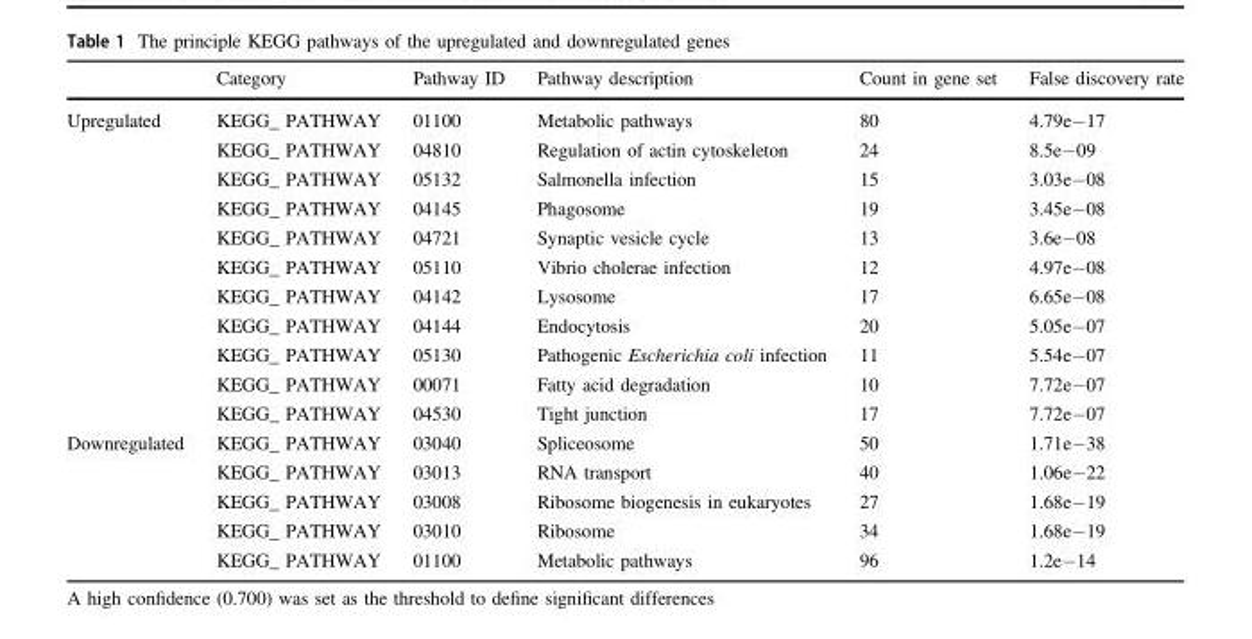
<table><thead><tr><td></td><td>Category</td><td>Pathway ID</td><td>Pathway description</td><td>Count in gene set</td><td>False discovery rate</td></tr></thead><tbody><tr><td rowspan="11">Upregulated</td><td>KEGG_ PATHWAY</td><td>01100</td><td>Metabolic pathways</td><td>80</td><td>4.79e−17</td></tr><tr><td>KEGG_ PATHWAY</td><td>04810</td><td>Regulation of actin cytoskeleton</td><td>24</td><td>8.5e−09</td></tr><tr><td>KEGG_ PATHWAY</td><td>05132</td><td>Salmonella infection</td><td>15</td><td>3.03e−08</td></tr><tr><td>KEGG_ PATHWAY</td><td>04145</td><td>Phagosome</td><td>19</td><td>3.45e−08</td></tr><tr><td>KEGG_ PATHWAY</td><td>04721</td><td>Synaptic vesicle cycle</td><td>13</td><td>3.6e−08</td></tr><tr><td>KEGG_ PATHWAY</td><td>05110</td><td>Vibrio cholerae infection</td><td>12</td><td>4.97e−08</td></tr><tr><td>KEGG_ PATHWAY</td><td>04142</td><td>Lysosome</td><td>17</td><td>6.65e−08</td></tr><tr><td>KEGG_ PATHWAY</td><td>04144</td><td>Endocytosis</td><td>20</td><td>5.05e−07</td></tr><tr><td>KEGG_ PATHWAY</td><td>05130</td><td>Pathogenic Escherichia coli infection</td><td>11</td><td>5.54e−07</td></tr><tr><td>KEGG_ PATHWAY</td><td>00071</td><td>Fatty acid degradation</td><td>10</td><td>7.72e−07</td></tr><tr><td>KEGG_ PATHWAY</td><td>04530</td><td>Tight junction</td><td>17</td><td>7.72e−07</td></tr><tr><td rowspan="5">Downregulated</td><td>KEGG_ PATHWAY</td><td>03040</td><td>Spliceosome</td><td>50</td><td>1.71e−38</td></tr><tr><td>KEGG_ PATHWAY</td><td>03013</td><td>RNA transport</td><td>40</td><td>1.06e−22</td></tr><tr><td>KEGG_ PATHWAY</td><td>03008</td><td>Ribosome biogenesis in eukaryotes</td><td>27</td><td>1.68e−19</td></tr><tr><td>KEGG_ PATHWAY</td><td>03010</td><td>Ribosome</td><td>34</td><td>1.68e−19</td></tr><tr><td>KEGG_ PATHWAY</td><td>01100</td><td>Metabolic pathways</td><td>96</td><td>1.2e−14</td></tr></tbody></table>